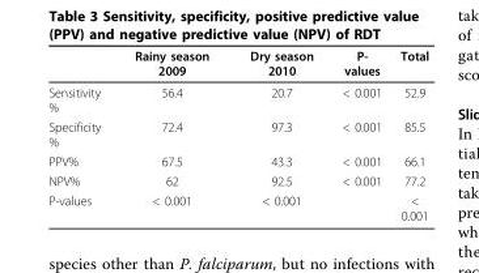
<table><thead><tr><td></td><td>Rainy season 2009</td><td>Dry season 2010</td><td>P- values</td><td>Total</td></tr></thead><tbody><tr><td>Sensitivity %</td><td>56.4</td><td>20.7</td><td>&lt; 0.001</td><td>52.9</td></tr><tr><td>Specificity %</td><td>72.4</td><td>97.3</td><td>&lt; 0.001</td><td>85.5</td></tr><tr><td>PPV%</td><td>67.5</td><td>43.3</td><td>&lt; 0.001</td><td>66.1</td></tr><tr><td>NPV%</td><td>62</td><td>92.5</td><td>&lt; 0.001</td><td>77.2</td></tr><tr><td>P-values</td><td>&lt; 0.001</td><td>&lt; 0.001</td><td></td><td>&lt; 0.001</td></tr></tbody></table>